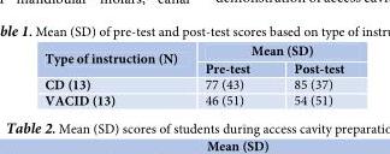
<table><thead><tr><td rowspan="2">Type of instruction (N)</td><td colspan="2">Mean (SD)</td></tr><tr><td>Pre-test</td><td>Post-test</td></tr></thead><tbody><tr><td>CD (13)</td><td>77 (43)</td><td>85 (37)</td></tr><tr><td>VACID (13)</td><td>46 (51)</td><td>54 (51)</td></tr></tbody></table>